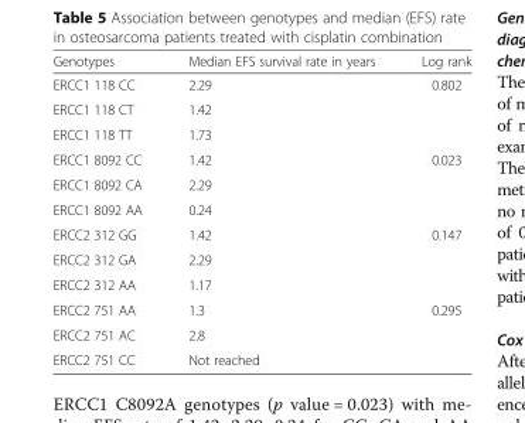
<table><thead><tr><td>Genotypes</td><td>Median EFS survival rate in years</td><td>Log rank</td></tr></thead><tbody><tr><td>ERCC1 118 CC</td><td>2.29</td><td rowspan="3">0.802</td></tr><tr><td>ERCC1 118 CT</td><td>1.42</td></tr><tr><td>ERCC1 118 TT</td><td>1.73</td></tr><tr><td>ERCC1 8092 CC</td><td>1.42</td><td rowspan="3">0.023</td></tr><tr><td>ERCC1 8092 CA</td><td>2.29</td></tr><tr><td>ERCC1 8092 AA</td><td>0.24</td></tr><tr><td>ERCC2 312 GG</td><td>1.42</td><td rowspan="3">0.147</td></tr><tr><td>ERCC2 312 GA</td><td>2.29</td></tr><tr><td>ERCC2 312 AA</td><td>1.17</td></tr><tr><td>ERCC2 751 AA</td><td>1.3</td><td rowspan="3">0.295</td></tr><tr><td>ERCC2 751 AC</td><td>2.8</td></tr><tr><td>ERCC2 751 CC</td><td>Not reached</td></tr></tbody></table>